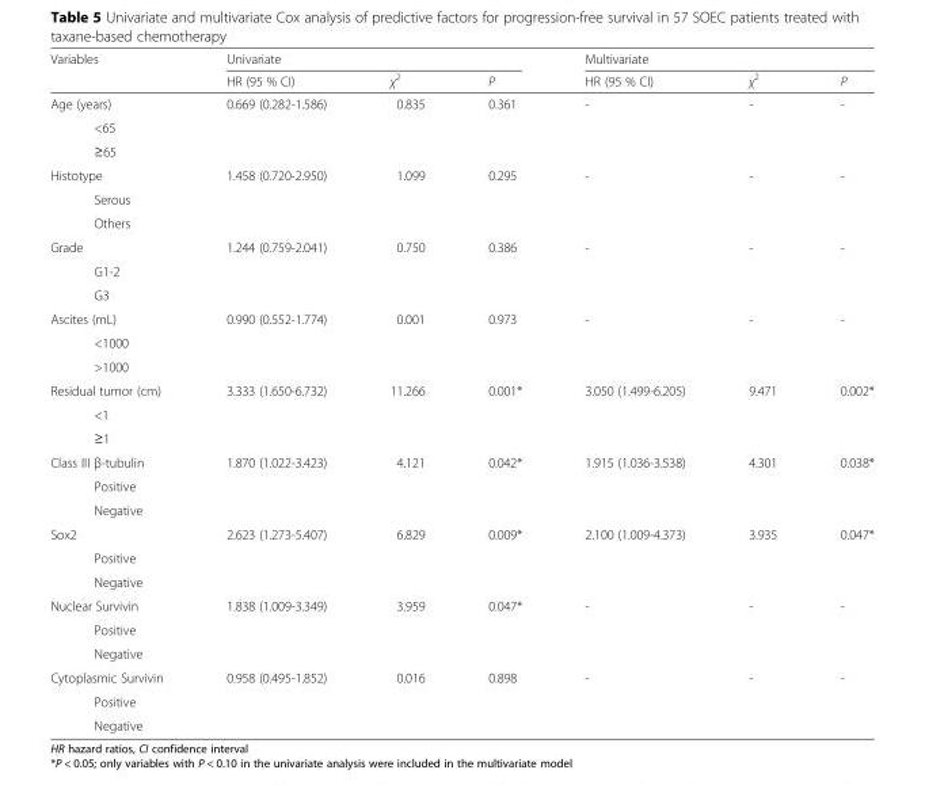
<table><thead><tr><td rowspan="2">Variables</td><td colspan="3">Univariate</td><td colspan="3">Multivariate</td></tr><tr><td>HR (95 % CI)</td><td>χ<sup>2</sup></td><td>P</td><td>HR (95 % CI)</td><td>χ<sup>2</sup></td><td>P</td></tr></thead><tbody><tr><td>Age (years)</td><td>0.669 (0.282-1.586)</td><td>0.835</td><td>0.361</td><td>-</td><td>-</td><td>-</td></tr><tr><td colspan="7">&lt;65</td></tr><tr><td colspan="7">≥65</td></tr><tr><td>Histotype</td><td>1.458 (0.720-2.950)</td><td>1.099</td><td>0.295</td><td>-</td><td>-</td><td>-</td></tr><tr><td colspan="7">Serous</td></tr><tr><td colspan="7">Others</td></tr><tr><td>Grade</td><td>1.244 (0.759-2.041)</td><td>0.750</td><td>0.386</td><td>-</td><td>-</td><td>-</td></tr><tr><td colspan="7">G1-2</td></tr><tr><td colspan="7">G3</td></tr><tr><td>Ascites (mL)</td><td>0.990 (0.552-1.774)</td><td>0.001</td><td>0.973</td><td>-</td><td>-</td><td>-</td></tr><tr><td colspan="7">&lt;1000</td></tr><tr><td colspan="7">&gt;1000</td></tr><tr><td>Residual tumor (cm)</td><td>3.333 (1.650-6.732)</td><td>11.266</td><td>0.001*</td><td>3.050 (1.499-6.205)</td><td>9.471</td><td>0.002*</td></tr><tr><td colspan="7">&lt;1</td></tr><tr><td colspan="7">≥1</td></tr><tr><td>Class III β-tubulin</td><td>1.870 (1.022-3.423)</td><td>4.121</td><td>0.042*</td><td>1.915 (1.036-3.538)</td><td>4.301</td><td>0.038*</td></tr><tr><td colspan="7">Positive</td></tr><tr><td colspan="7">Negative</td></tr><tr><td>Sox2</td><td>2.623 (1.273-5.407)</td><td>6.829</td><td>0.009*</td><td>2.100 (1.009-4.373)</td><td>3.935</td><td>0.047*</td></tr><tr><td colspan="7">Positive</td></tr><tr><td colspan="7">Negative</td></tr><tr><td>Nuclear Survivin</td><td>1.838 (1.009-3.349)</td><td>3.959</td><td>0.047*</td><td>-</td><td>-</td><td>-</td></tr><tr><td colspan="7">Positive</td></tr><tr><td colspan="7">Negative</td></tr><tr><td>Cytoplasmic Survivin</td><td>0.958 (0.495-1.852)</td><td>0.016</td><td>0.898</td><td>-</td><td>-</td><td>-</td></tr><tr><td colspan="7">Positive</td></tr><tr><td>Negative</td><td></td><td></td><td></td><td></td><td></td><td></td></tr></tbody></table>